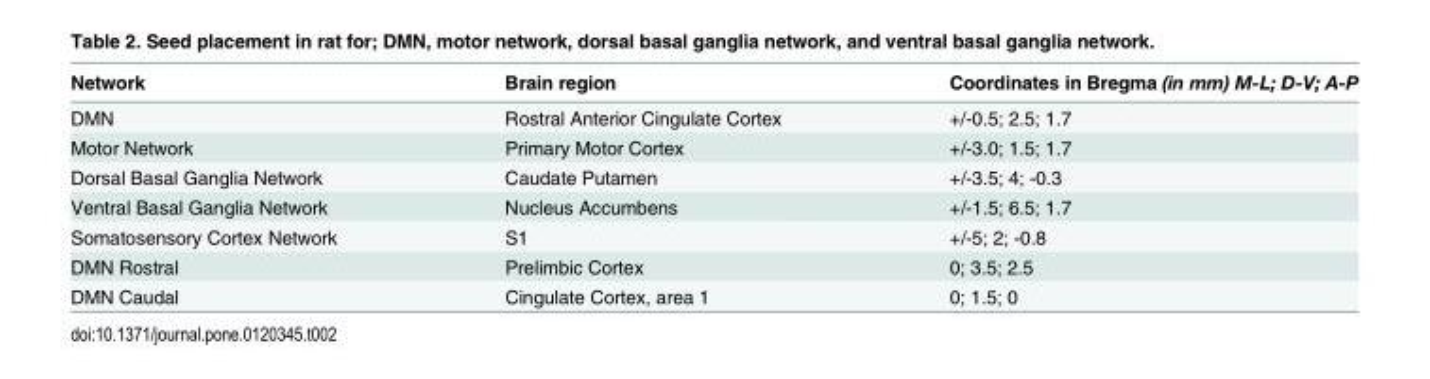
<table><thead><tr><td>Network</td><td>Brain region</td><td>Coordinates in Bregma (in mm) M-L; D-V; A-P</td></tr></thead><tbody><tr><td>DMN</td><td>Rostral Anterior Cingulate Cortex</td><td>+/-0.5; 2.5; 1.7</td></tr><tr><td>Motor Network</td><td>Primary Motor Cortex</td><td>+/-3.0; 1.5; 1.7</td></tr><tr><td>Dorsal Basal Ganglia Network</td><td>Caudate Putamen</td><td>+/-3.5; 4; -0.3</td></tr><tr><td>Ventral Basal Ganglia Network</td><td>Nucleus Accumbens</td><td>+/-1.5; 6.5; 1.7</td></tr><tr><td>Somatosensory Cortex Network</td><td>S1</td><td>+/-5; 2; -0.8</td></tr><tr><td>DMN Rostral</td><td>Prelimbic Cortex</td><td>0; 3.5; 2.5</td></tr><tr><td>DMN Caudal</td><td>Cingulate Cortex, area 1</td><td>0; 1.5; 0</td></tr></tbody></table>